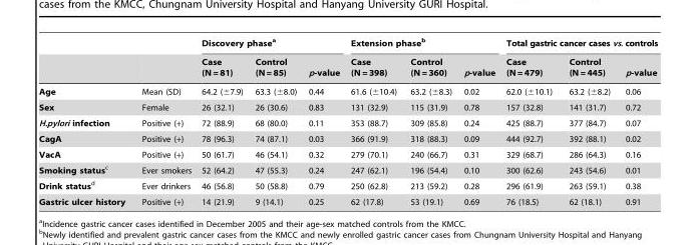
<table><thead><tr><td rowspan="2"></td><td rowspan="2"></td><td colspan="3">Discovery phase<sup>a</sup></td><td colspan="3">Extension phase<sup>b</sup></td><td colspan="3">Total gastric cancer cases vs. controls</td></tr><tr><td>Case (N = 81)</td><td>Control (N = 85)</td><td>p-value</td><td>Case (N = 398)</td><td>Control (N = 360)</td><td>p-value</td><td>Case (N = 479)</td><td>Control (N = 445)</td><td>p-value</td></tr></thead><tbody><tr><td>Age</td><td>Mean (SD)</td><td>64.2 (±7.9)</td><td>63.3 (±8.0)</td><td>0.44</td><td>61.6 (±10.4)</td><td>63.2 (±8.3)</td><td>0.02</td><td>62.0 (±10.1)</td><td>63.2 (±8.2)</td><td>0.06</td></tr><tr><td>Sex</td><td>Female</td><td>26 (32.1)</td><td>26 (30.6)</td><td>0.83</td><td>131 (32.9)</td><td>115 (31.9)</td><td>0.78</td><td>157 (32.8)</td><td>141 (31.7)</td><td>0.72</td></tr><tr><td>H.pylori infection</td><td>Positive (+)</td><td>72 (88.9)</td><td>68 (80.0)</td><td>0.11</td><td>353 (88.7)</td><td>309 (85.8)</td><td>0.24</td><td>425 (88.7)</td><td>377 (84.7)</td><td>0.07</td></tr><tr><td>CagA</td><td>Positive (+)</td><td>78 (96.3)</td><td>74 (87.1)</td><td>0.03</td><td>366 (91.9)</td><td>318 (88.3)</td><td>0.09</td><td>444 (92.7)</td><td>392 (88.1)</td><td>0.02</td></tr><tr><td>VacA</td><td>Positive (+)</td><td>50 (61.7)</td><td>46 (54.1)</td><td>0.32</td><td>279 (70.1)</td><td>240 (66.7)</td><td>0.31</td><td>329 (68.7)</td><td>286 (64.3)</td><td>0.16</td></tr><tr><td>Smoking statusc</td><td>Ever smokers</td><td>52 (64.2)</td><td>47 (55.3)</td><td>0.24</td><td>247 (62.1)</td><td>196 (54.4)</td><td>0.10</td><td>300 (62.6)</td><td>243 (54.6)</td><td>0.01</td></tr><tr><td>Drink statusd</td><td>Ever drinkers</td><td>46 (56.8)</td><td>50 (58.8)</td><td>0.79</td><td>250 (62.8)</td><td>213 (59.2)</td><td>0.28</td><td>296 (61.9)</td><td>263 (59.1)</td><td>0.38</td></tr><tr><td>Gastric ulcer history</td><td>Positive (+)</td><td>14 (21.9)</td><td>9 (14.1)</td><td>0.25</td><td>62 (17.8)</td><td>53 (19.1)</td><td>0.69</td><td>76 (18.5)</td><td>62 (18.1)</td><td>0.91</td></tr></tbody></table>